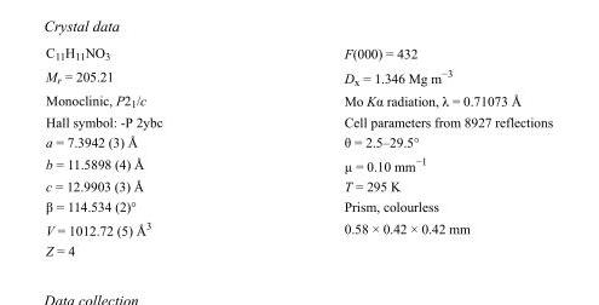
<table><tbody><tr><td>C<sub>11</sub>H<sub>11</sub>NO<sub>3</sub></td><td>F(000) = 432</td></tr><tr><td>M<sub>r</sub> = 205.21</td><td>D<sub>x</sub> = 1.346 Mg m<sup>−3</sup></td></tr><tr><td>Monoclinic, P2<sub>1</sub>/c</td><td>Mo Kα radiation, λ = 0.71073 Å</td></tr><tr><td>Hall symbol: -P 2ybc</td><td>Cell parameters from 8927 reflections</td></tr><tr><td>a = 7.3942 (3) Å</td><td>θ = 2.5–29.5°</td></tr><tr><td>b = 11.5898 (4) Å</td><td>µ = 0.10 mm<sup>−1</sup></td></tr><tr><td>c = 12.9903 (3) Å</td><td>T = 295 K</td></tr><tr><td>β = 114.534 (2)°</td><td>Prism, colourless</td></tr><tr><td>V = 1012.72 (5) Å<sup>3</sup></td><td>0.58 × 0.42 × 0.42 mm</td></tr><tr><td>Z = 4</td><td></td></tr></tbody></table>